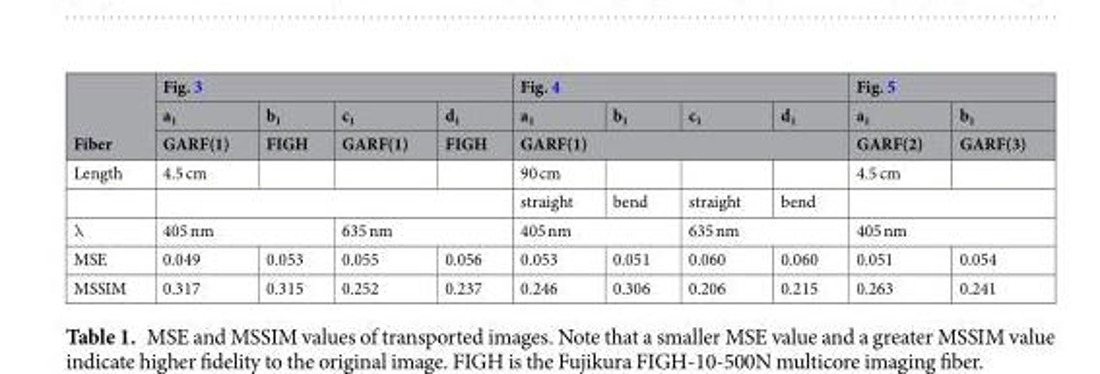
<table><thead><tr><td rowspan="3">Fiber</td><td colspan="4">Fig. 3</td><td colspan="4">Fig. 4</td><td colspan="2">Fig. 5</td></tr><tr><td rowspan="2">a<sub>1</sub> GARF(1)</td><td rowspan="2">b<sub>1</sub> FIGH</td><td rowspan="2">c<sub>1</sub> GARF(1)</td><td rowspan="2">d<sub>1</sub> FIGH</td><td>a<sub>1</sub></td><td>b<sub>1</sub></td><td>c<sub>1</sub></td><td>d<sub>1</sub></td><td rowspan="2">a<sub>1</sub> GARF(2)</td><td rowspan="2">b<sub>1</sub> GARF(3)</td></tr><tr><td colspan="4">GARF(1)</td></tr></thead><tbody><tr><td rowspan="2">Length</td><td>4.5 cm</td><td></td><td></td><td></td><td>90 cm</td><td></td><td></td><td></td><td>4.5 cm</td><td></td></tr><tr><td colspan="4"></td><td>straight</td><td>bend</td><td>straight</td><td>bend</td><td colspan="2"></td></tr><tr><td>λ</td><td colspan="2">405 nm</td><td colspan="2">635 nm</td><td colspan="2">405 nm</td><td colspan="2">635 nm</td><td colspan="2">405 nm</td></tr><tr><td>MSE</td><td>0.049</td><td>0.053</td><td>0.055</td><td>0.056</td><td>0.053</td><td>0.051</td><td>0.060</td><td>0.060</td><td>0.051</td><td>0.054</td></tr><tr><td>MSSIM</td><td>0.317</td><td>0.315</td><td>0.252</td><td>0.237</td><td>0.246</td><td>0.306</td><td>0.206</td><td>0.215</td><td>0.263</td><td>0.241</td></tr></tbody></table>